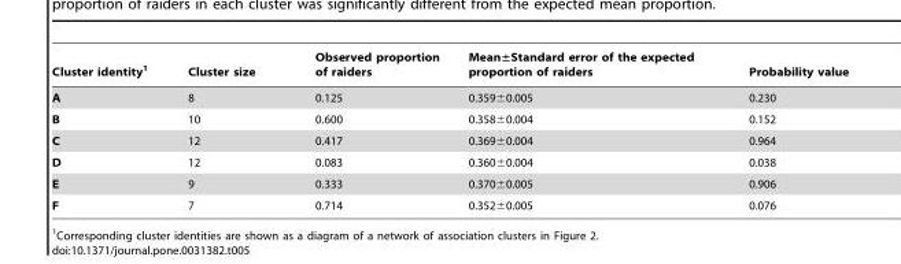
<table><thead><tr><td>Cluster identity<sup>1</sup></td><td>Cluster size</td><td>Observed proportion of raiders</td><td>Mean±Standard error of the expected proportion of raiders</td><td>Probability value</td></tr></thead><tbody><tr><td>A</td><td>8</td><td>0.125</td><td>0.359±0.005</td><td>0.230</td></tr><tr><td>B</td><td>10</td><td>0.600</td><td>0.358±0.004</td><td>0.152</td></tr><tr><td>C</td><td>12</td><td>0.417</td><td>0.369±0.004</td><td>0.964</td></tr><tr><td>D</td><td>12</td><td>0.083</td><td>0.360±0.004</td><td>0.038</td></tr><tr><td>E</td><td>9</td><td>0.333</td><td>0.370±0.005</td><td>0.906</td></tr><tr><td>F</td><td>7</td><td>0.714</td><td>0.352±0.005</td><td>0.076</td></tr></tbody></table>